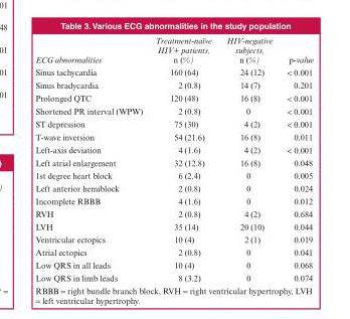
<table><thead><tr><td>ECG abnormalities</td><td>Treatment-naïve HIV+ patients, n (%)</td><td>HIV-negative subjects, n (%)</td><td>p-value</td></tr></thead><tbody><tr><td>Sinus tachycardia</td><td>160 (64)</td><td>24 (12)</td><td>&lt; 0.001</td></tr><tr><td>Sinus bradycardia</td><td>2 (0.8)</td><td>14 (7)</td><td>0.201</td></tr><tr><td>Prolonged QTC</td><td>120 (48)</td><td>16 (8)</td><td>&lt; 0.001</td></tr><tr><td>Shortened PR interval (WPW)</td><td>2 (0.8)</td><td>0</td><td>&lt; 0.001</td></tr><tr><td>ST depression</td><td>75 (30)</td><td>4 (2)</td><td>&lt; 0.001</td></tr><tr><td>T-wave inversion</td><td>54 (21.6)</td><td>16 (8)</td><td>0.011</td></tr><tr><td>Left-axis deviation</td><td>4 (1.6)</td><td>4 (2)</td><td>&lt; 0.001</td></tr><tr><td>Left atrial enlargement</td><td>32 (12.8)</td><td>16 (8)</td><td>0.048</td></tr><tr><td>1st degree heart block</td><td>6 (2.4)</td><td>0</td><td>0.005</td></tr><tr><td>Left anterior hemiblock</td><td>2 (0.8)</td><td>0</td><td>0.024</td></tr><tr><td>Incomplete RBBB</td><td>4 (1.6)</td><td>0</td><td>0.012</td></tr><tr><td>RVH</td><td>2 (0.8)</td><td>4 (2)</td><td>0.684</td></tr><tr><td>LVH</td><td>35 (14)</td><td>20 (10)</td><td>0.044</td></tr><tr><td>Ventricular ectopics</td><td>10 (4)</td><td>2 (1)</td><td>0.019</td></tr><tr><td>Atrial ectopics</td><td>2 (0.8)</td><td>0</td><td>0.041</td></tr><tr><td>Low QRS in all leads</td><td>10 (4)</td><td>0</td><td>0.068</td></tr><tr><td>Low QRS in limb leads</td><td>8 (3.2)</td><td>0</td><td>0.074</td></tr></tbody></table>